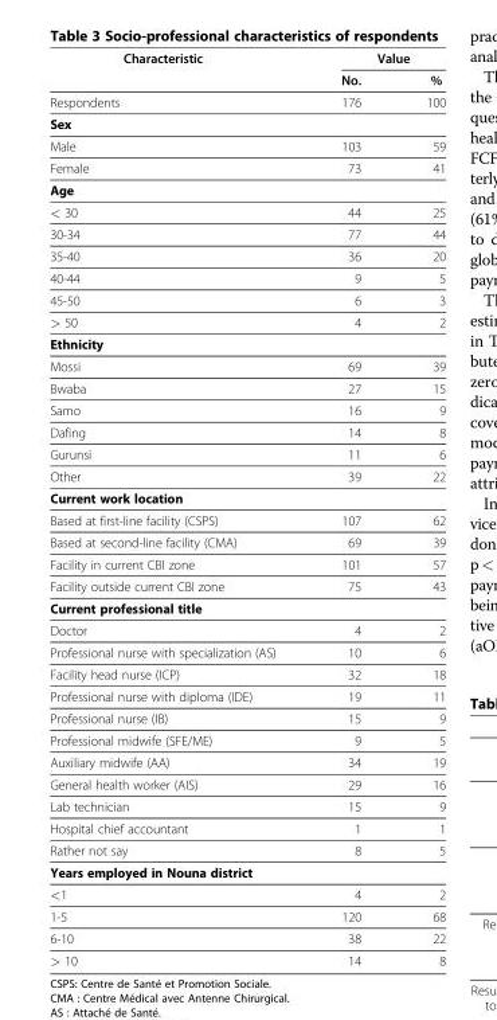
<table><thead><tr><td rowspan="2">Characteristic</td><td colspan="2">Value</td></tr><tr><td>No.</td><td>%</td></tr></thead><tbody><tr><td>Respondents</td><td>176</td><td>100</td></tr><tr><td colspan="3">Sex</td></tr><tr><td>Male</td><td>103</td><td>59</td></tr><tr><td>Female</td><td>73</td><td>41</td></tr><tr><td colspan="3">Age</td></tr><tr><td>&lt; 30</td><td>44</td><td>25</td></tr><tr><td>30-34</td><td>77</td><td>44</td></tr><tr><td>35-40</td><td>36</td><td>20</td></tr><tr><td>40-44</td><td>9</td><td>5</td></tr><tr><td>45-50</td><td>6</td><td>3</td></tr><tr><td>&gt; 50</td><td>4</td><td>2</td></tr><tr><td colspan="3">Ethnicity</td></tr><tr><td>Mossi</td><td>69</td><td>39</td></tr><tr><td>Bwaba</td><td>27</td><td>15</td></tr><tr><td>Samo</td><td>16</td><td>9</td></tr><tr><td>Dafing</td><td>14</td><td>8</td></tr><tr><td>Gurunsi</td><td>11</td><td>6</td></tr><tr><td>Other</td><td>39</td><td>22</td></tr><tr><td colspan="3">Current work location</td></tr><tr><td>Based at first-line facility (CSPS)</td><td>107</td><td>62</td></tr><tr><td>Based at second-line facility (CMA)</td><td>69</td><td>39</td></tr><tr><td>Facility in current CBI zone</td><td>101</td><td>57</td></tr><tr><td>Facility outside current CBI zone</td><td>75</td><td>43</td></tr><tr><td colspan="3">Current professional title</td></tr><tr><td>Doctor</td><td>4</td><td>2</td></tr><tr><td>Professional nurse with specialization (AS)</td><td>10</td><td>6</td></tr><tr><td>Facility head nurse (ICP)</td><td>32</td><td>18</td></tr><tr><td>Professional nurse with diploma (IDE)</td><td>19</td><td>11</td></tr><tr><td>Professional nurse (IB)</td><td>15</td><td>9</td></tr><tr><td>Professional midwife (SFE/ME)</td><td>9</td><td>5</td></tr><tr><td>Auxiliary midwife (AA)</td><td>34</td><td>19</td></tr><tr><td>General health worker (AIS)</td><td>29</td><td>16</td></tr><tr><td>Lab technician</td><td>15</td><td>9</td></tr><tr><td>Hospital chief accountant</td><td>1</td><td>1</td></tr><tr><td>Rather not say</td><td>8</td><td>5</td></tr><tr><td colspan="3">Years employed in Nouna district</td></tr><tr><td>&lt;1</td><td>4</td><td>2</td></tr><tr><td>1-5</td><td>120</td><td>68</td></tr><tr><td>6-10</td><td>38</td><td>22</td></tr><tr><td>&gt; 10</td><td>14</td><td>8</td></tr></tbody></table>